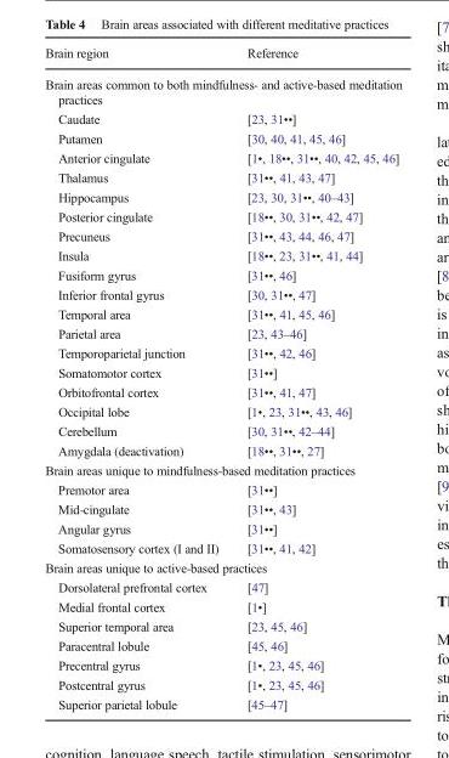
<table><thead><tr><td>Brain region</td><td>Reference</td></tr></thead><tbody><tr><td colspan="2">Brain areas common to both mindfulness- and active-based meditation practices</td></tr><tr><td>Caudate</td><td>[23, 31••]</td></tr><tr><td>Putamen</td><td>[30, 40, 41, 45, 46]</td></tr><tr><td>Anterior cingulate</td><td>[1•, 18••, 31••, 40, 42, 45, 46]</td></tr><tr><td>Thalamus</td><td>[31••, 41, 43, 47]</td></tr><tr><td>Hippocampus</td><td>[23, 30, 31••, 40–43]</td></tr><tr><td>Posterior cingulate</td><td>[18••, 30, 31••, 42, 47]</td></tr><tr><td>Precuneus</td><td>[31••, 43, 44, 46, 47]</td></tr><tr><td>Insula</td><td>[18••, 23, 31••, 41, 44]</td></tr><tr><td>Fusiform gyrus</td><td>[31••, 46]</td></tr><tr><td>Inferior frontal gyrus</td><td>[30, 31••, 47]</td></tr><tr><td>Temporal area</td><td>[31••, 41, 45, 46]</td></tr><tr><td>Parietal area</td><td>[23, 43–46]</td></tr><tr><td>Temporoparietal junction</td><td>[31••, 42, 46]</td></tr><tr><td>Somatomotor cortex</td><td>[31••]</td></tr><tr><td>Orbitofrontal cortex</td><td>[31••, 41, 47]</td></tr><tr><td>Occipital lobe</td><td>[1•, 23, 31••, 43, 46]</td></tr><tr><td>Cerebellum</td><td>[30, 31••, 42–44]</td></tr><tr><td>Amygdala (deactivation)</td><td>[18••, 31••, 27]</td></tr><tr><td colspan="2">Brain areas unique to mindfulness-based meditation practices</td></tr><tr><td>Premotor area</td><td>[31••]</td></tr><tr><td>Mid-cingulate</td><td>[31••, 43]</td></tr><tr><td>Angular gyrus</td><td>[31••]</td></tr><tr><td>Somatosensory cortex (I and II)</td><td>[31••, 41, 42]</td></tr><tr><td colspan="2">Brain areas unique to active-based practices</td></tr><tr><td>Dorsolateral prefrontal cortex</td><td>[47]</td></tr><tr><td>Medial frontal cortex</td><td>[1•]</td></tr><tr><td>Superior temporal area</td><td>[23, 45, 46]</td></tr><tr><td>Paracentral lobule</td><td>[45, 46]</td></tr><tr><td>Precentral gyrus</td><td>[1•, 23, 45, 46]</td></tr><tr><td>Postcentral gyrus</td><td>[1•, 23, 45, 46]</td></tr><tr><td>Superior parietal lobule</td><td>[45–47]</td></tr></tbody></table>